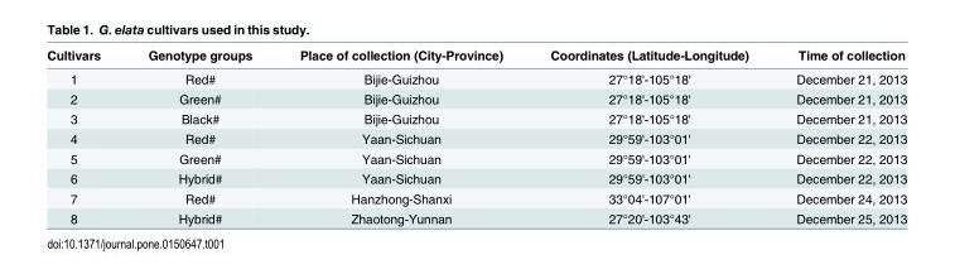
<table><thead><tr><td>Cultivars</td><td>Genotype groups</td><td>Place of collection (City-Province)</td><td>Coordinates (Latitude-Longitude)</td><td>Time of collection</td></tr></thead><tbody><tr><td>1</td><td>Red#</td><td>Bijie-Guizhou</td><td>27°18&#x27;-105°18&#x27;</td><td>December 21, 2013</td></tr><tr><td>2</td><td>Green#</td><td>Bijie-Guizhou</td><td>27°18&#x27;-105°18&#x27;</td><td>December 21, 2013</td></tr><tr><td>3</td><td>Black#</td><td>Bijie-Guizhou</td><td>27°18&#x27;-105°18&#x27;</td><td>December 21, 2013</td></tr><tr><td>4</td><td>Red#</td><td>Yaan-Sichuan</td><td>29°59&#x27;-103°01&#x27;</td><td>December 22, 2013</td></tr><tr><td>5</td><td>Green#</td><td>Yaan-Sichuan</td><td>29°59&#x27;-103°01&#x27;</td><td>December 22, 2013</td></tr><tr><td>6</td><td>Hybrid#</td><td>Yaan-Sichuan</td><td>29°59&#x27;-103°01&#x27;</td><td>December 22, 2013</td></tr><tr><td>7</td><td>Red#</td><td>Hanzhong-Shanxi</td><td>33°04&#x27;-107°01&#x27;</td><td>December 24, 2013</td></tr><tr><td>8</td><td>Hybrid#</td><td>Zhaotong-Yunnan</td><td>27°20&#x27;-103°43&#x27;</td><td>December 25, 2013</td></tr></tbody></table>